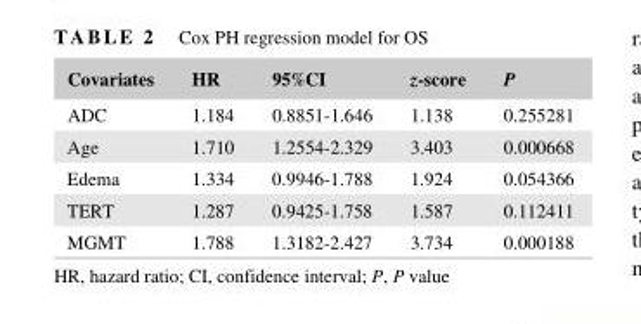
<table><thead><tr><td>Covariates</td><td>HR</td><td>95%CI</td><td>z- score</td><td>P</td></tr></thead><tbody><tr><td>ADC</td><td>1.184</td><td>0.8851- 1.646</td><td>1.138</td><td>0.255281</td></tr><tr><td>Age</td><td>1.710</td><td>1.2554- 2.329</td><td>3.403</td><td>0.000668</td></tr><tr><td>Edema</td><td>1.334</td><td>0.9946- 1.788</td><td>1.924</td><td>0.054366</td></tr><tr><td>TERT</td><td>1.287</td><td>0.9425- 1.758</td><td>1.587</td><td>0.112411</td></tr><tr><td>MGMT</td><td>1.788</td><td>1.3182- 2.427</td><td>3.734</td><td>0.000188</td></tr></tbody></table>